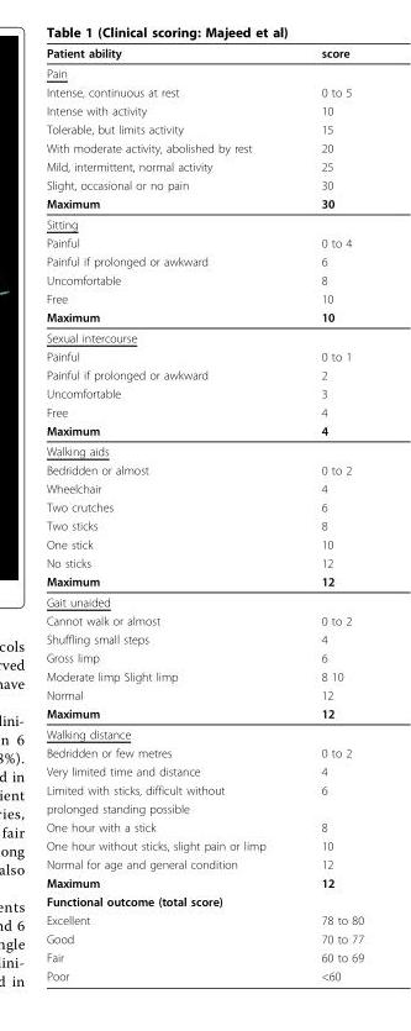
<table><thead><tr><td>Patient ability</td><td>score</td></tr></thead><tbody><tr><td colspan="2">Pain</td></tr><tr><td>Intense, continuous at rest</td><td>0 to 5</td></tr><tr><td>Intense with activity</td><td>10</td></tr><tr><td>Tolerable, but limits activity</td><td>15</td></tr><tr><td>With moderate activity, abolished by rest</td><td>20</td></tr><tr><td>Mild, intermittent, normal activity</td><td>25</td></tr><tr><td>Slight, occasional or no pain</td><td>30</td></tr><tr><td>Maximum</td><td>30</td></tr><tr><td colspan="2">Sitting</td></tr><tr><td>Painful</td><td>0 to 4</td></tr><tr><td>Painful if prolonged or awkward</td><td>6</td></tr><tr><td>Uncomfortable</td><td>8</td></tr><tr><td>Free</td><td>10</td></tr><tr><td>Maximum</td><td>10</td></tr><tr><td colspan="2">Sexual intercourse</td></tr><tr><td>Painful</td><td>0 to 1</td></tr><tr><td>Painful if prolonged or awkward</td><td>2</td></tr><tr><td>Uncomfortable</td><td>3</td></tr><tr><td>Free</td><td>4</td></tr><tr><td>Maximum</td><td>4</td></tr><tr><td colspan="2">Walking aids</td></tr><tr><td>Bedridden or almost</td><td>0 to 2</td></tr><tr><td>Wheelchair</td><td>4</td></tr><tr><td>Two crutches</td><td>6</td></tr><tr><td>Two sticks</td><td>8</td></tr><tr><td>One stick</td><td>10</td></tr><tr><td>No sticks</td><td>12</td></tr><tr><td>Maximum</td><td>12</td></tr><tr><td colspan="2">Gait unaided</td></tr><tr><td>Cannot walk or almost</td><td>0 to 2</td></tr><tr><td>Shuffling small steps</td><td>4</td></tr><tr><td>Gross limp</td><td>6</td></tr><tr><td>Moderate limp Slight limp</td><td>8 10</td></tr><tr><td>Normal</td><td>12</td></tr><tr><td>Maximum</td><td>12</td></tr><tr><td colspan="2">Walking distance</td></tr><tr><td>Bedridden or few metres</td><td>0 to 2</td></tr><tr><td>Very limited time and distance</td><td>4</td></tr><tr><td>Limited with sticks, difficult without</td><td>6</td></tr><tr><td colspan="2">prolonged standing possible</td></tr><tr><td>One hour with a stick</td><td>8</td></tr><tr><td>One hour without sticks, slight pain or limp</td><td>10</td></tr><tr><td>Normal for age and general condition</td><td>12</td></tr><tr><td>Maximum</td><td>12</td></tr><tr><td colspan="2">Functional outcome (total score)</td></tr><tr><td>Excellent</td><td>78 to 80</td></tr><tr><td>Good</td><td>70 to 77</td></tr><tr><td>Fair</td><td>60 to 69</td></tr><tr><td>Poor</td><td>&lt;60</td></tr></tbody></table>